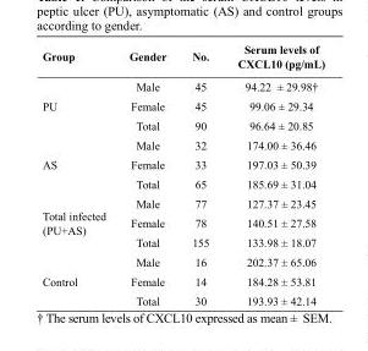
<table><thead><tr><td>Group</td><td>Gender</td><td>No.</td><td>Serum levels of CXCL10 (pg/mL)</td></tr></thead><tbody><tr><td rowspan="3">PU</td><td>Male</td><td>45</td><td>94.22 ± 29.98†</td></tr><tr><td>Female</td><td>45</td><td>99.06 ± 29.34</td></tr><tr><td>Total</td><td>90</td><td>96.64 ± 20.85</td></tr><tr><td rowspan="3">AS</td><td>Male</td><td>32</td><td>174.00 ± 36.46</td></tr><tr><td>Female</td><td>33</td><td>197.03 ± 50.39</td></tr><tr><td>Total</td><td>65</td><td>185.69 ± 31.04</td></tr><tr><td rowspan="3">Total infected (PU+AS)</td><td>Male</td><td>77</td><td>127.37 ± 23.45</td></tr><tr><td>Female</td><td>78</td><td>140.51 ± 27.58</td></tr><tr><td>Total</td><td>155</td><td>133.98 ± 18.07</td></tr><tr><td rowspan="3">Control</td><td>Male</td><td>16</td><td>202.37 ± 65.06</td></tr><tr><td>Female</td><td>14</td><td>184.28 ± 53.81</td></tr><tr><td>Total</td><td>30</td><td>193.93 ± 42.14</td></tr></tbody></table>